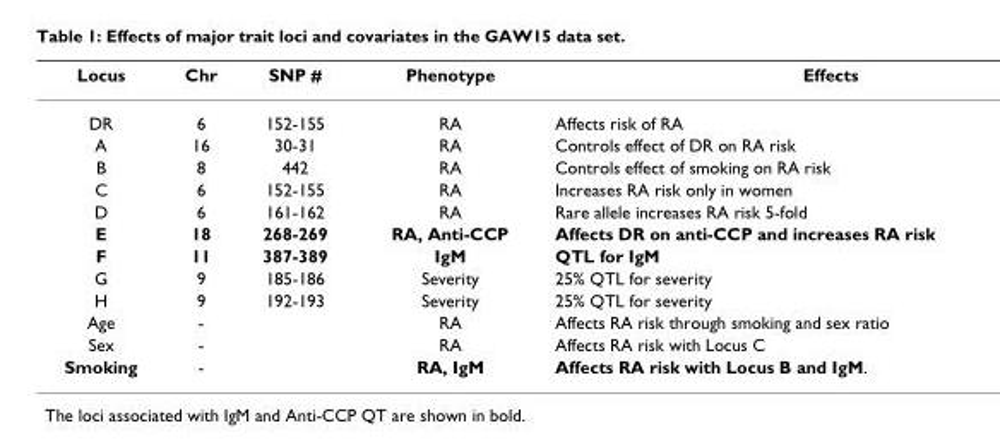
<table><thead><tr><td>Locus</td><td>Chr</td><td>SNP #</td><td>Phenotype</td><td>Effects</td></tr></thead><tbody><tr><td>DR</td><td>6</td><td>152-155</td><td>RA</td><td>Affects risk of RA</td></tr><tr><td>A</td><td>16</td><td>30-31</td><td>RA</td><td>Controls effect of DR on RA risk</td></tr><tr><td>B</td><td>8</td><td>442</td><td>RA</td><td>Controls effect of smoking on RA risk</td></tr><tr><td>C</td><td>6</td><td>152-155</td><td>RA</td><td>Increases RA risk only in women</td></tr><tr><td>D</td><td>6</td><td>161-162</td><td>RA</td><td>Rare allele increases RA risk 5-fold</td></tr><tr><td>E</td><td>18</td><td>268-269</td><td>RA, Anti-CCP</td><td>Affects DR on anti-CCP and increases RA risk</td></tr><tr><td>F</td><td>11</td><td>387-389</td><td>IgM</td><td>QTL for IgM</td></tr><tr><td>G</td><td>9</td><td>185-186</td><td>Severity</td><td>25% QTL for severity</td></tr><tr><td>H</td><td>9</td><td>192-193</td><td>Severity</td><td>25% QTL for severity</td></tr><tr><td>Age</td><td>-</td><td></td><td>RA</td><td>Affects RA risk through smoking and sex ratio</td></tr><tr><td>Sex</td><td>-</td><td></td><td>RA</td><td>Affects RA risk with Locus C</td></tr><tr><td>Smoking</td><td>-</td><td></td><td>RA, IgM</td><td>Affects RA risk with Locus B and IgM.</td></tr></tbody></table>